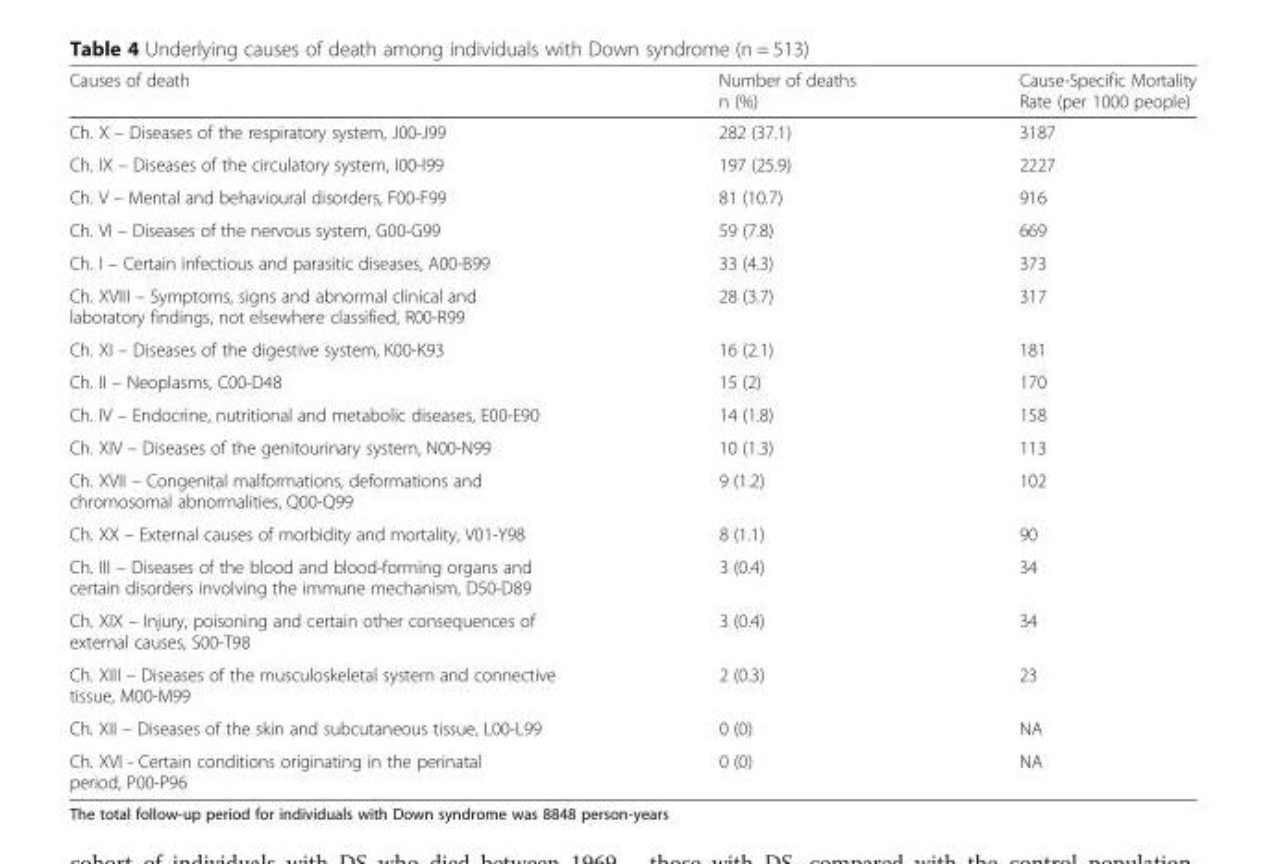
<table><thead><tr><td>Causes of death</td><td>Number of deaths n (%)</td><td>Cause-Specific Mortality Rate (per 1000 people)</td></tr></thead><tbody><tr><td>Ch. X – Diseases of the respiratory system, J00-J99</td><td>282 (37.1)</td><td>3187</td></tr><tr><td>Ch. IX – Diseases of the circulatory system, I00-I99</td><td>197 (25.9)</td><td>2227</td></tr><tr><td>Ch. V – Mental and behavioural disorders, F00-F99</td><td>81 (10.7)</td><td>916</td></tr><tr><td>Ch. VI – Diseases of the nervous system, G00-G99</td><td>59 (7.8)</td><td>669</td></tr><tr><td>Ch. I – Certain infectious and parasitic diseases, A00-B99</td><td>33 (4.3)</td><td>373</td></tr><tr><td>Ch. XVIII – Symptoms, signs and abnormal clinical and laboratory findings, not elsewhere classified, R00-R99</td><td>28 (3.7)</td><td>317</td></tr><tr><td>Ch. XI – Diseases of the digestive system, K00-K93</td><td>16 (2.1)</td><td>181</td></tr><tr><td>Ch. II – Neoplasms, C00-D48</td><td>15 (2)</td><td>170</td></tr><tr><td>Ch. IV – Endocrine, nutritional and metabolic diseases, E00-E90</td><td>14 (1.8)</td><td>158</td></tr><tr><td>Ch. XIV – Diseases of the genitourinary system, N00-N99</td><td>10 (1.3)</td><td>113</td></tr><tr><td>Ch. XVII – Congenital malformations, deformations and chromosomal abnormalities, Q00-Q99</td><td>9 (1.2)</td><td>102</td></tr><tr><td>Ch. XX – External causes of morbidity and mortality, V01-Y98</td><td>8 (1.1)</td><td>90</td></tr><tr><td>Ch. III – Diseases of the blood and blood-forming organs and certain disorders involving the immune mechanism, D50-D89</td><td>3 (0.4)</td><td>34</td></tr><tr><td>Ch. XIX – Injury, poisoning and certain other consequences of external causes, S00-T98</td><td>3 (0.4)</td><td>34</td></tr><tr><td>Ch. XIII – Diseases of the musculoskeletal system and connective tissue, M00-M99</td><td>2 (0.3)</td><td>23</td></tr><tr><td>Ch. XII – Diseases of the skin and subcutaneous tissue, L00-L99</td><td>0 (0)</td><td>NA</td></tr><tr><td>Ch. XVI - Certain conditions originating in the perinatal period, P00-P96</td><td>0 (0)</td><td>NA</td></tr></tbody></table>